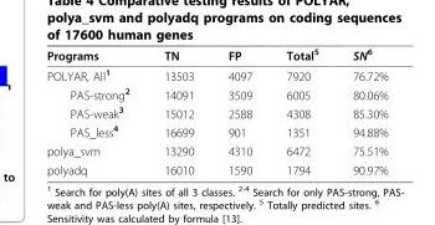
<table><thead><tr><td>Programs</td><td>TN</td><td>FP</td><td>Total<sup>5</sup></td><td>SN<sup>6</sup></td></tr></thead><tbody><tr><td>POLYAR, All<sup>1</sup></td><td>13503</td><td>4097</td><td>7920</td><td>76.72%</td></tr><tr><td>PAS-strong<sup>2</sup></td><td>14091</td><td>3509</td><td>6005</td><td>80.06%</td></tr><tr><td>PAS-weak<sup>3</sup></td><td>15012</td><td>2588</td><td>4308</td><td>85.30%</td></tr><tr><td>PAS_less<sup>4</sup></td><td>16699</td><td>901</td><td>1351</td><td>94.88%</td></tr><tr><td>polya_svm</td><td>13290</td><td>4310</td><td>6472</td><td>75.51%</td></tr><tr><td>polyadq</td><td>16010</td><td>1590</td><td>1794</td><td>90.97%</td></tr></tbody></table>